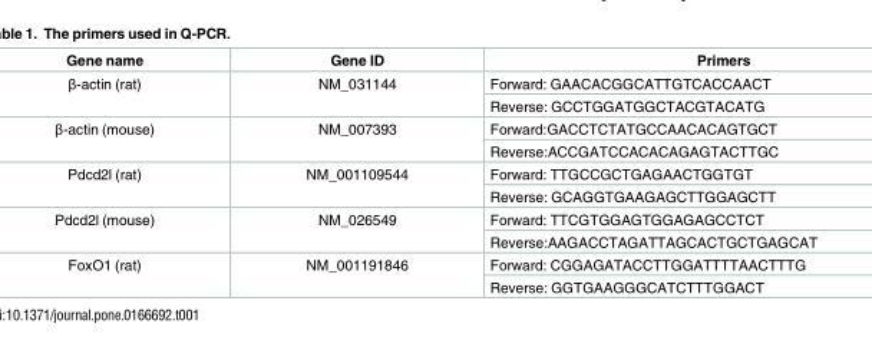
<table><thead><tr><td>Gene name</td><td>Gene ID</td><td>Primers</td></tr></thead><tbody><tr><td rowspan="2">β-actin (rat)</td><td rowspan="2">NM_031144</td><td>Forward: GAACACGGCATTGTCACCAACT</td></tr><tr><td>Reverse: GCCTGGATGGCTACGTACATG</td></tr><tr><td rowspan="2">β-actin (mouse)</td><td rowspan="2">NM_007393</td><td>Forward:GACCTCTATGCCAACACAGTGCT</td></tr><tr><td>Reverse:ACCGATCCACACAGAGTACTTGC</td></tr><tr><td rowspan="2">Pdcd2l (rat)</td><td rowspan="2">NM_001109544</td><td>Forward: TTGCCGCTGAGAACTGGTGT</td></tr><tr><td>Reverse: GCAGGTGAAGAGCTTGGAGCTT</td></tr><tr><td rowspan="2">Pdcd2l (mouse)</td><td rowspan="2">NM_026549</td><td>Forward: TTCGTGGAGTGGAGAGCCTCT</td></tr><tr><td>Reverse:AAGACCTAGATTAGCACTGCTGAGCAT</td></tr><tr><td rowspan="2">FoxO1 (rat)</td><td rowspan="2">NM_001191846</td><td>Forward: CGGAGATACCTTGGATTTTAACTTTG</td></tr><tr><td>Reverse: GGTGAAGGGCATCTTTGGACT</td></tr></tbody></table>